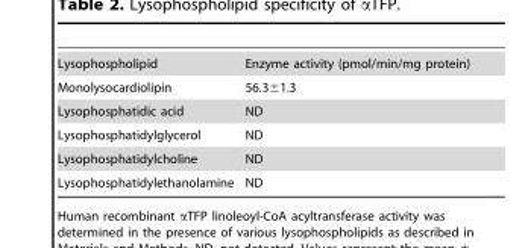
<table><tbody><tr><td>Lysophospholipid</td><td>Enzyme activity (pmol/min/mg protein)</td></tr><tr><td>Monolysocardiolipin</td><td>56.3±1.3</td></tr><tr><td>Lysophosphatidic acid</td><td>ND</td></tr><tr><td>Lysophosphatidylglycerol</td><td>ND</td></tr><tr><td>Lysophosphatidylcholine</td><td>ND</td></tr><tr><td>Lysophosphatidylethanolamine</td><td>ND</td></tr></tbody></table>